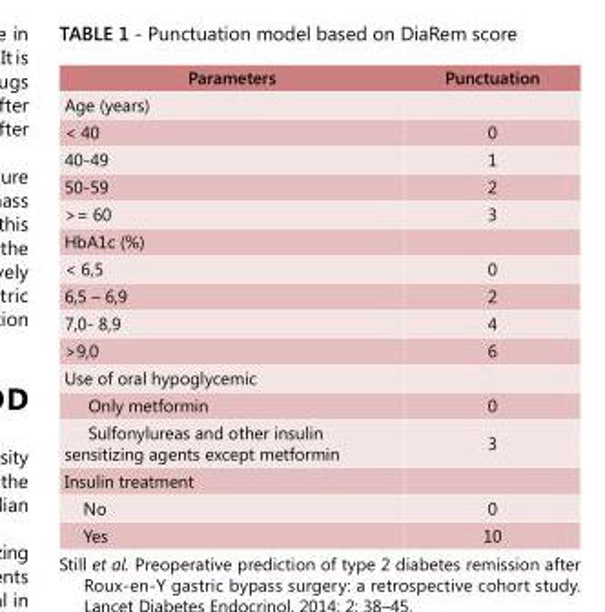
<table><thead><tr><td>Parameters</td><td>Punctuation</td></tr></thead><tbody><tr><td colspan="2">Age (years)</td></tr><tr><td>&lt; 40</td><td>0</td></tr><tr><td>40-49</td><td>1</td></tr><tr><td>50-59</td><td>2</td></tr><tr><td>&gt;= 60</td><td>3</td></tr><tr><td colspan="2">HbA1c (%)</td></tr><tr><td>&lt; 6,5</td><td>0</td></tr><tr><td>6,5 – 6,9</td><td>2</td></tr><tr><td>7,0- 8,9</td><td>4</td></tr><tr><td>&gt;9,0</td><td>6</td></tr><tr><td colspan="2">Use of oral hypoglycemic</td></tr><tr><td>Only metformin</td><td>0</td></tr><tr><td>Sulfonylureas and other insulin sensitizing agents except metformin</td><td>3</td></tr><tr><td colspan="2">Insulin treatment</td></tr><tr><td>No</td><td>0</td></tr><tr><td>Yes</td><td>10</td></tr></tbody></table>